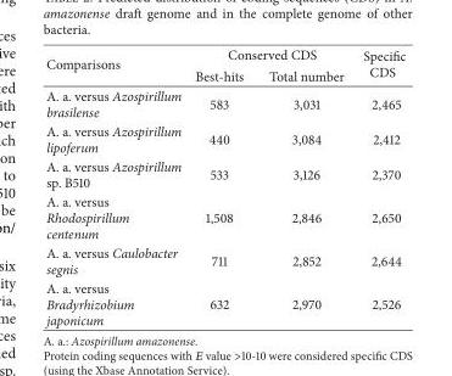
<table><thead><tr><td rowspan="2">Comparisons</td><td colspan="2">Conserved CDS</td><td rowspan="2">Specific CDS</td></tr><tr><td>Best-hits</td><td>Total number</td></tr></thead><tbody><tr><td>A. a. versus Azospirillum brasilense</td><td>583</td><td>3,031</td><td>2,465</td></tr><tr><td>A. a. versus Azospirillum lipoferum</td><td>440</td><td>3,084</td><td>2,412</td></tr><tr><td>A. a. versus Azospirillum sp. B510</td><td>533</td><td>3,126</td><td>2,370</td></tr><tr><td>A. a. versus Rhodospirillum centenum</td><td>1,508</td><td>2,846</td><td>2,650</td></tr><tr><td>A. a. versus Caulobacter segnis</td><td>711</td><td>2,852</td><td>2,644</td></tr><tr><td>A. a. versus Bradyrhizobium japonicum</td><td>632</td><td>2,970</td><td>2,526</td></tr></tbody></table>